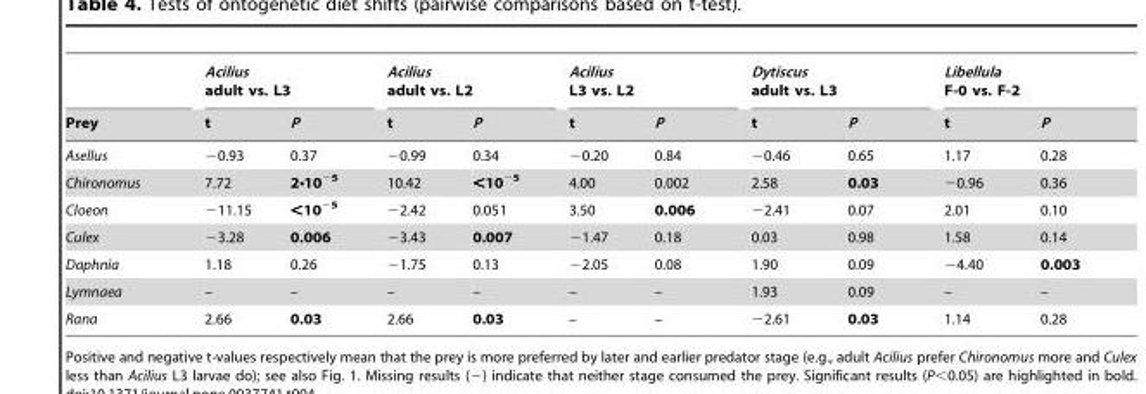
<table><thead><tr><td rowspan="2">Prey</td><td colspan="2">Acilius adult vs. L3</td><td colspan="2">Acilius adult vs. L2</td><td colspan="2">Acilius L3 vs. L2</td><td colspan="2">Dytiscus adult vs. L3</td><td colspan="2">Libellula F-0 vs. F-2</td></tr><tr><td>t</td><td>P</td><td>t</td><td>P</td><td>t</td><td>P</td><td>t</td><td>P</td><td>t</td><td>P</td></tr></thead><tbody><tr><td>Asellus</td><td>−0.93</td><td>0.37</td><td>−0.99</td><td>0.34</td><td>−0.20</td><td>0.84</td><td>−0.46</td><td>0.65</td><td>1.17</td><td>0.28</td></tr><tr><td>Chironomus</td><td>7.72</td><td>2•10<sup>−5</sup></td><td>10.42</td><td>&lt;10<sup>−5</sup></td><td>4.00</td><td>0.002</td><td>2.58</td><td>0.03</td><td>−0.96</td><td>0.36</td></tr><tr><td>Cloeon</td><td>−11.15</td><td>&lt;10<sup>−5</sup></td><td>−2.42</td><td>0.051</td><td>3.50</td><td>0.006</td><td>−2.41</td><td>0.07</td><td>2.01</td><td>0.10</td></tr><tr><td>Culex</td><td>−3.28</td><td>0.006</td><td>−3.43</td><td>0.007</td><td>−1.47</td><td>0.18</td><td>0.03</td><td>0.98</td><td>1.58</td><td>0.14</td></tr><tr><td>Daphnia</td><td>1.18</td><td>0.26</td><td>−1.75</td><td>0.13</td><td>−2.05</td><td>0.08</td><td>1.90</td><td>0.09</td><td>−4.40</td><td>0.003</td></tr><tr><td>Lymnaea</td><td>–</td><td>–</td><td>–</td><td>–</td><td>–</td><td>–</td><td>1.93</td><td>0.09</td><td>–</td><td>–</td></tr><tr><td>Rana</td><td>2.66</td><td>0.03</td><td>2.66</td><td>0.03</td><td>–</td><td>–</td><td>−2.61</td><td>0.03</td><td>1.14</td><td>0.28</td></tr></tbody></table>